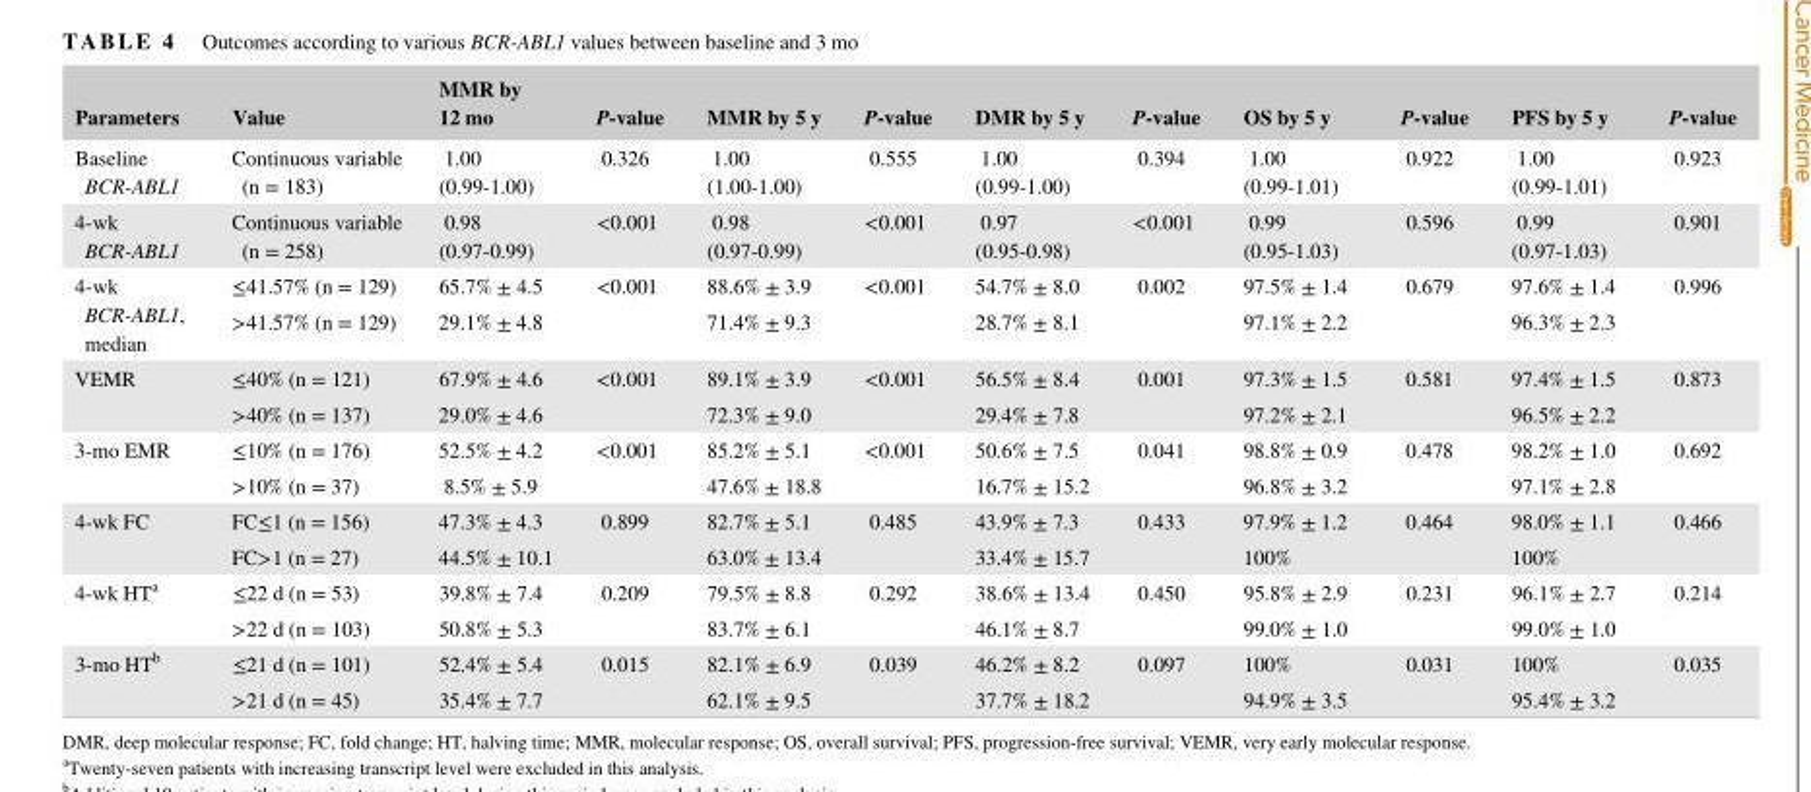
<table><thead><tr><td>Parameters</td><td>Value</td><td>MMR by 12 mo</td><td>P- value</td><td>MMR by 5 y</td><td>P- value</td><td>DMR by 5 y</td><td>P- value</td><td>OS by 5 y</td><td>P- value</td><td>PFS by 5 y</td><td>P- value</td></tr></thead><tbody><tr><td>Baseline BCR-ABL1</td><td>Continuous variable (n = 183)</td><td>1.00 (0.99- 1.00)</td><td>0.326</td><td>1.00 (1.00- 1.00)</td><td>0.555</td><td>1.00 (0.99- 1.00)</td><td>0.394</td><td>1.00 (0.99- 1.01)</td><td>0.922</td><td>1.00 (0.99- 1.01)</td><td>0.923</td></tr><tr><td>4- wk BCR-ABL1</td><td>Continuous variable (n = 258)</td><td>0.98 (0.97- 0.99)</td><td>&lt;0.001</td><td>0.98 (0.97- 0.99)</td><td>&lt;0.001</td><td>0.97 (0.95- 0.98)</td><td>&lt;0.001</td><td>0.99 (0.95- 1.03)</td><td>0.596</td><td>0.99 (0.97- 1.03)</td><td>0.901</td></tr><tr><td rowspan="2">4- wk BCR-ABL1, median</td><td>≤41.57% (n = 129)</td><td>65.7% ± 4.5</td><td rowspan="2">&lt;0.001</td><td>88.6% ± 3.9</td><td rowspan="2">&lt;0.001</td><td>54.7% ± 8.0</td><td rowspan="2">0.002</td><td>97.5% ± 1.4</td><td rowspan="2">0.679</td><td>97.6% ± 1.4</td><td rowspan="2">0.996</td></tr><tr><td>&gt;41.57% (n = 129)</td><td>29.1% ± 4.8</td><td>71.4% ± 9.3</td><td>28.7% ± 8.1</td><td>97.1% ± 2.2</td><td>96.3% ± 2.3</td></tr><tr><td rowspan="2">VEMR</td><td>≤40% (n = 121)</td><td>67.9% ± 4.6</td><td rowspan="2">&lt;0.001</td><td>89.1% ± 3.9</td><td rowspan="2">&lt;0.001</td><td>56.5% ± 8.4</td><td rowspan="2">0.001</td><td>97.3% ± 1.5</td><td rowspan="2">0.581</td><td>97.4% ± 1.5</td><td rowspan="2">0.873</td></tr><tr><td>&gt;40% (n = 137)</td><td>29.0% ± 4.6</td><td>72.3% ± 9.0</td><td>29.4% ± 7.8</td><td>97.2% ± 2.1</td><td>96.5% ± 2.2</td></tr><tr><td rowspan="2">3- mo EMR</td><td>≤10% (n = 176)</td><td>52.5% ± 4.2</td><td rowspan="2">&lt;0.001</td><td>85.2% ± 5.1</td><td rowspan="2">&lt;0.001</td><td>50.6% ± 7.5</td><td rowspan="2">0.041</td><td>98.8% ± 0.9</td><td rowspan="2">0.478</td><td>98.2% ± 1.0</td><td rowspan="2">0.692</td></tr><tr><td>&gt;10% (n = 37)</td><td>8.5% ± 5.9</td><td>47.6% ± 18.8</td><td>16.7% ± 15.2</td><td>96.8% ± 3.2</td><td>97.1% ± 2.8</td></tr><tr><td rowspan="2">4- wk FC</td><td>FC≤1 (n = 156)</td><td>47.3% ± 4.3</td><td rowspan="2">0.899</td><td>82.7% ± 5.1</td><td rowspan="2">0.485</td><td>43.9% ± 7.3</td><td rowspan="2">0.433</td><td>97.9% ± 1.2</td><td rowspan="2">0.464</td><td>98.0% ± 1.1</td><td rowspan="2">0.466</td></tr><tr><td>FC&gt;1 (n = 27)</td><td>44.5% ± 10.1</td><td>63.0% ± 13.4</td><td>33.4% ± 15.7</td><td>100%</td><td>100%</td></tr><tr><td rowspan="2">4- wk HT<sup>a</sup></td><td>≤22 d (n = 53)</td><td>39.8% ± 7.4</td><td rowspan="2">0.209</td><td>79.5% ± 8.8</td><td rowspan="2">0.292</td><td>38.6% ± 13.4</td><td rowspan="2">0.450</td><td>95.8% ± 2.9</td><td rowspan="2">0.231</td><td>96.1% ± 2.7</td><td rowspan="2">0.214</td></tr><tr><td>&gt;22 d (n = 103)</td><td>50.8% ± 5.3</td><td>83.7% ± 6.1</td><td>46.1% ± 8.7</td><td>99.0% ± 1.0</td><td>99.0% ± 1.0</td></tr><tr><td rowspan="2">3- mo HT<sup>b</sup></td><td>≤21 d (n = 101)</td><td>52.4% ± 5.4</td><td rowspan="2">0.015</td><td>82.1% ± 6.9</td><td rowspan="2">0.039</td><td>46.2% ± 8.2</td><td rowspan="2">0.097</td><td>100%</td><td rowspan="2">0.031</td><td>100%</td><td rowspan="2">0.035</td></tr><tr><td>&gt;21 d (n = 45)</td><td>35.4% ± 7.7</td><td>62.1% ± 9.5</td><td>37.7% ± 18.2</td><td>94.9% ± 3.5</td><td>95.4% ± 3.2</td></tr></tbody></table>